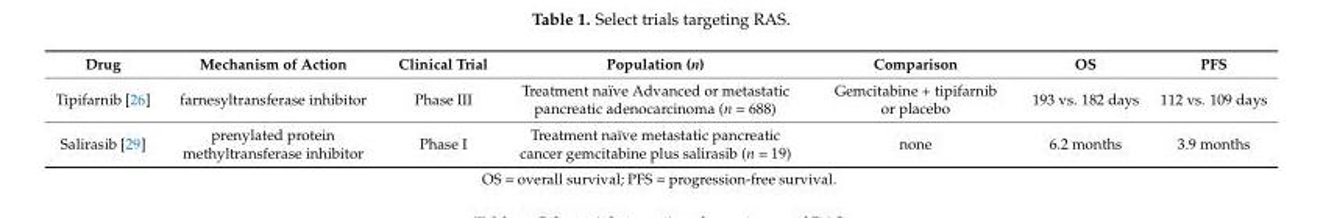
<table><thead><tr><td>Drug</td><td>Mechanism of Action</td><td>Clinical Trial</td><td>Population (n)</td><td>Comparison</td><td>OS</td><td>PFS</td></tr></thead><tbody><tr><td>Tipifarnib [26]</td><td>farnesyltransferase inhibitor</td><td>Phase III</td><td>Treatment naïve Advanced or metastatic pancreatic adenocarcinoma (n = 688)</td><td>Gemcitabine + tipifarnib or placebo</td><td>193 vs. 182 days</td><td>112 vs. 109 days</td></tr><tr><td>Salirasib [29]</td><td>prenylated protein methyltransferase inhibitor</td><td>Phase I</td><td>Treatment naïve metastatic pancreatic cancer gemcitabine plus salirasib (n = 19)</td><td>none</td><td>6.2 months</td><td>3.9 months</td></tr></tbody></table>